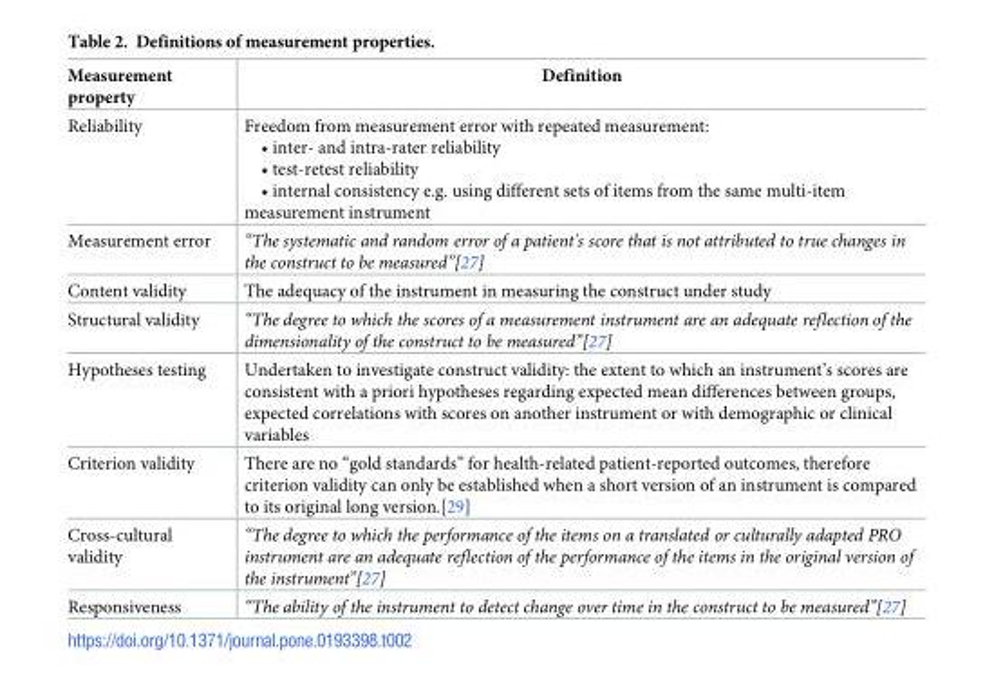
<table><thead><tr><td>Measurement property</td><td>Definition</td></tr></thead><tbody><tr><td>Reliability</td><td>Freedom from measurement error with repeated measurement: • inter- and intra-rater reliability • test-retest reliability • internal consistency e.g. using different sets of items from the same multi-item measurement instrument</td></tr><tr><td>Measurement error</td><td>“The systematic and random error of a patient&#x27;s score that is not attributed to true changes in the construct to be measured”[27]</td></tr><tr><td>Content validity</td><td>The adequacy of the instrument in measuring the construct under study</td></tr><tr><td>Structural validity</td><td>“The degree to which the scores of a measurement instrument are an adequate reflection of the dimensionality of the construct to be measured”[27]</td></tr><tr><td>Hypotheses testing</td><td>Undertaken to investigate construct validity: the extent to which an instrument’s scores are consistent with a priori hypotheses regarding expected mean differences between groups, expected correlations with scores on another instrument or with demographic or clinical variables</td></tr><tr><td>Criterion validity</td><td>There are no “gold standards” for health-related patient-reported outcomes, therefore criterion validity can only be established when a short version of an instrument is compared to its original long version.[29]</td></tr><tr><td>Cross-cultural validity</td><td>“The degree to which the performance of the items on a translated or culturally adapted PRO instrument are an adequate reflection of the performance of the items in the original version of the instrument”[27]</td></tr><tr><td>Responsiveness</td><td>“The ability of the instrument to detect change over time in the construct to be measured”[27]</td></tr></tbody></table>